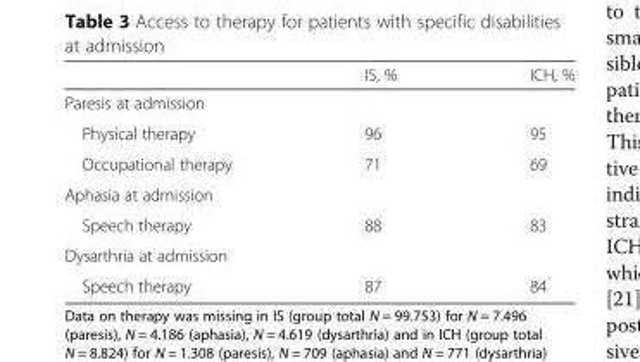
<table><thead><tr><td></td><td>IS, %</td><td>ICH, %</td></tr></thead><tbody><tr><td colspan="3">Paresis at admission</td></tr><tr><td>Physical therapy</td><td>96</td><td>95</td></tr><tr><td>Occupational therapy</td><td>71</td><td>69</td></tr><tr><td colspan="3">Aphasia at admission</td></tr><tr><td>Speech therapy</td><td>88</td><td>83</td></tr><tr><td colspan="3">Dysarthria at admission</td></tr><tr><td>Speech therapy</td><td>87</td><td>84</td></tr></tbody></table>